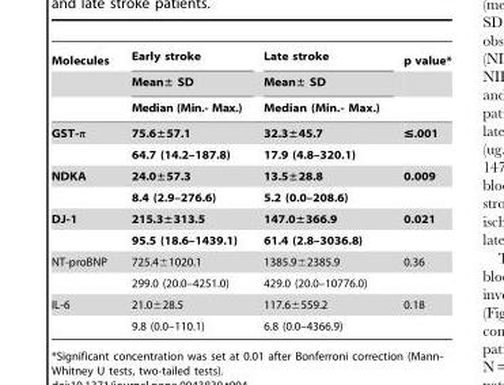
<table><thead><tr><td rowspan="3">Molecules</td><td rowspan="3">Early stroke Mean± SD Median (Min.- Max.)</td><td rowspan="3">Late stroke Mean± SD Median (Min.- Max.)</td><td rowspan="3">p value*</td></tr><tr></tr><tr></tr></thead><tbody><tr><td rowspan="2">GST-π</td><td>75.6±57.1</td><td>32.3±45.7</td><td>≤.001</td></tr><tr><td>64.7 (14.2–187.8)</td><td>17.9 (4.8–320.1)</td><td></td></tr><tr><td rowspan="2">NDKA</td><td>24.0±57.3</td><td>13.5±28.8</td><td>0.009</td></tr><tr><td>8.4 (2.9–276.6)</td><td>5.2 (0.0–208.6)</td><td></td></tr><tr><td rowspan="2">DJ-1</td><td>215.3±313.5</td><td>147.0±366.9</td><td>0.021</td></tr><tr><td>95.5 (18.6–1439.1)</td><td>61.4 (2.8–3036.8)</td><td></td></tr><tr><td rowspan="2">NT-proBNP</td><td>725.4±1020.1</td><td>1385.9±2385.9</td><td>0.36</td></tr><tr><td>299.0 (20.0–4251.0)</td><td>429.0 (20.0–10776.0)</td><td></td></tr><tr><td rowspan="2">IL-6</td><td>21.0±28.5</td><td>117.6±559.2</td><td>0.18</td></tr><tr><td>9.8 (0.0–110.1)</td><td>6.8 (0.0–4366.9)</td><td></td></tr></tbody></table>